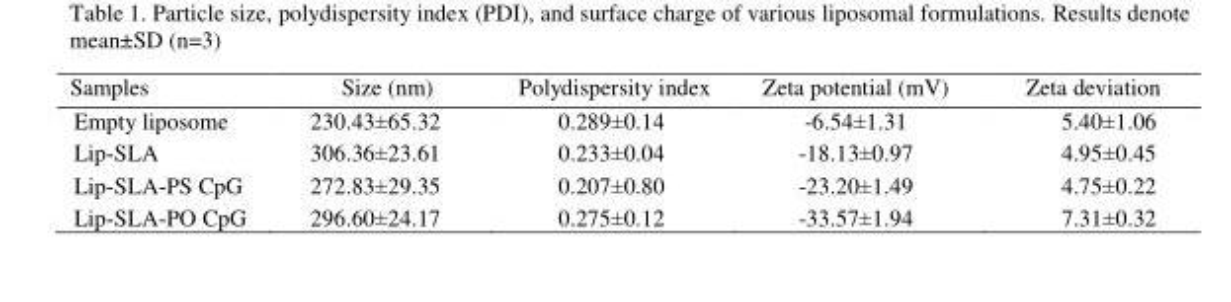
<table><thead><tr><td>Samples</td><td>Size (nm)</td><td>Polydispersity index</td><td>Zeta potential (mV)</td><td>Zeta deviation</td></tr></thead><tbody><tr><td>Empty liposome</td><td>230.43±65.32</td><td>0.289±0.14</td><td>-6.54±1.31</td><td>5.40±1.06</td></tr><tr><td>Lip-SLA</td><td>306.36±23.61</td><td>0.233±0.04</td><td>-18.13±0.97</td><td>4.95±0.45</td></tr><tr><td>Lip-SLA-PS CpG</td><td>272.83±29.35</td><td>0.207±0.80</td><td>-23.20±1.49</td><td>4.75±0.22</td></tr><tr><td>Lip-SLA-PO CpG</td><td>296.60±24.17</td><td>0.275±0.12</td><td>-33.57±1.94</td><td>7.31±0.32</td></tr></tbody></table>